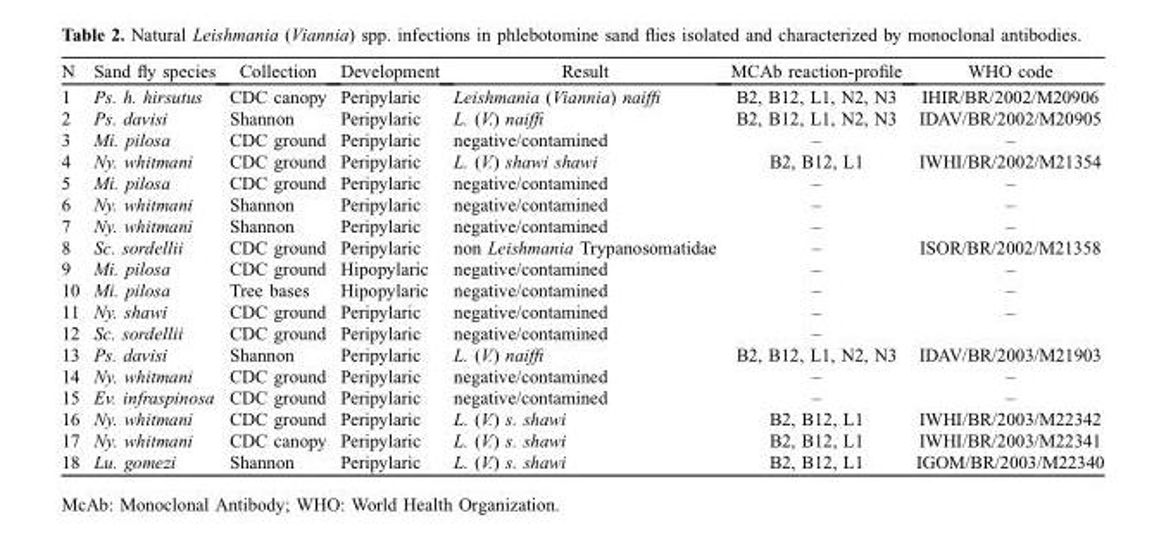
<table><thead><tr><td>N</td><td>Sand fly species</td><td>Collection</td><td>Development</td><td>Result</td><td>MCAb reaction-profile</td><td>WHO code</td></tr></thead><tbody><tr><td>1</td><td>Ps. h. hirsutus</td><td>CDC canopy</td><td>Peripylaric</td><td>Leishmania (Viannia) naiffi</td><td>B2, B12, L1, N2, N3</td><td>IHIR/BR/2002/M20906</td></tr><tr><td>2</td><td>Ps. davisi</td><td>Shannon</td><td>Peripylaric</td><td>L. (V.) naiffi</td><td>B2, B12, L1, N2, N3</td><td>IDAV/BR/2002/M20905</td></tr><tr><td>3</td><td>Mi. pilosa</td><td>CDC ground</td><td>Peripylaric</td><td>negative/contamined</td><td>–</td><td>–</td></tr><tr><td>4</td><td>Ny. whitmani</td><td>CDC ground</td><td>Peripylaric</td><td>L. (V.) shawi shawi</td><td>B2, B12, L1</td><td>IWHI/BR/2002/M21354</td></tr><tr><td>5</td><td>Mi. pilosa</td><td>CDC ground</td><td>Peripylaric</td><td>negative/contamined</td><td>–</td><td>–</td></tr><tr><td>6</td><td>Ny. whitmani</td><td>Shannon</td><td>Peripylaric</td><td>negative/contamined</td><td>–</td><td>–</td></tr><tr><td>7</td><td>Ny. whitmani</td><td>Shannon</td><td>Peripylaric</td><td>negative/contamined</td><td>–</td><td>–</td></tr><tr><td>8</td><td>Sc. sordellii</td><td>CDC ground</td><td>Peripylaric</td><td>non Leishmania Trypanosomatidae</td><td>–</td><td>ISOR/BR/2002/M21358</td></tr><tr><td>9</td><td>Mi. pilosa</td><td>CDC ground</td><td>Hipopylaric</td><td>negative/contamined</td><td>–</td><td>–</td></tr><tr><td>10</td><td>Mi. pilosa</td><td>Tree bases</td><td>Hipopylaric</td><td>negative/contamined</td><td>–</td><td>–</td></tr><tr><td>11</td><td>Ny. shawi</td><td>CDC ground</td><td>Peripylaric</td><td>negative/contamined</td><td>–</td><td>–</td></tr><tr><td>12</td><td>Sc. sordellii</td><td>CDC ground</td><td>Peripylaric</td><td>negative/contamined</td><td>–</td><td></td></tr><tr><td>13</td><td>Ps. davisi</td><td>Shannon</td><td>Peripylaric</td><td>L. (V.) naiffi</td><td>B2, B12, L1, N2, N3</td><td>IDAV/BR/2003/M21903</td></tr><tr><td>14</td><td>Ny. whitmani</td><td>CDC ground</td><td>Peripylaric</td><td>negative/contamined</td><td>–</td><td>–</td></tr><tr><td>15</td><td>Ev. infraspinosa</td><td>CDC ground</td><td>Peripylaric</td><td>negative/contamined</td><td>–</td><td>–</td></tr><tr><td>16</td><td>Ny. whitmani</td><td>CDC ground</td><td>Peripylaric</td><td>L. (V.) s. shawi</td><td>B2, B12, L1</td><td>IWHI/BR/2003/M22342</td></tr><tr><td>17</td><td>Ny. whitmani</td><td>CDC canopy</td><td>Peripylaric</td><td>L. (V.) s. shawi</td><td>B2, B12, L1</td><td>IWHI/BR/2003/M22341</td></tr><tr><td>18</td><td>Lu. gomezi</td><td>Shannon</td><td>Peripylaric</td><td>L. (V.) s. shawi</td><td>B2, B12, L1</td><td>IGOM/BR/2003/M22340</td></tr></tbody></table>